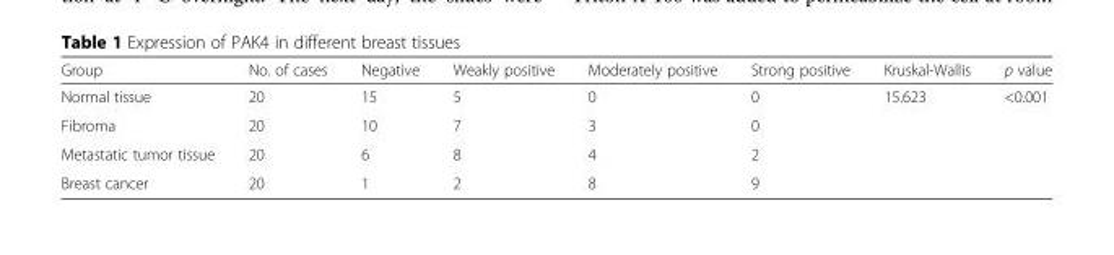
<table><thead><tr><td>Group</td><td>No. of cases</td><td>Negative</td><td>Weakly positive</td><td>Moderately positive</td><td>Strong positive</td><td>Kruskal-Wallis</td><td>p value</td></tr></thead><tbody><tr><td>Normal tissue</td><td>20</td><td>15</td><td>5</td><td>0</td><td>0</td><td rowspan="4">15.623</td><td rowspan="4">&lt;0.001</td></tr><tr><td>Fibroma</td><td>20</td><td>10</td><td>7</td><td>3</td><td>0</td></tr><tr><td>Metastatic tumor tissue</td><td>20</td><td>6</td><td>8</td><td>4</td><td>2</td></tr><tr><td>Breast cancer</td><td>20</td><td>1</td><td>2</td><td>8</td><td>9</td></tr></tbody></table>